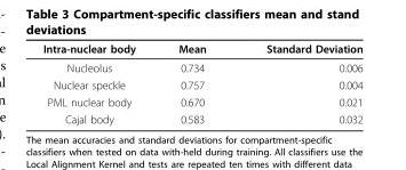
<table><thead><tr><td>Intra-nuclear body</td><td>Mean</td><td>Standard Deviation</td></tr></thead><tbody><tr><td>Nucleolus</td><td>0.734</td><td>0.006</td></tr><tr><td>Nuclear speckle</td><td>0.757</td><td>0.004</td></tr><tr><td>PML nuclear body</td><td>0.670</td><td>0.021</td></tr><tr><td>Cajal body</td><td>0.583</td><td>0.032</td></tr></tbody></table>